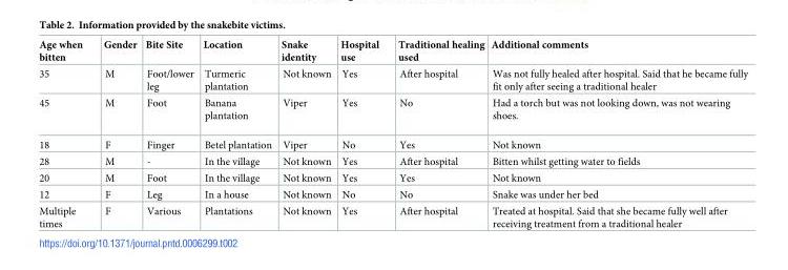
<table><thead><tr><td>Age when bitten</td><td>Gender</td><td>Bite Site</td><td>Location</td><td>Snake identity</td><td>Hospital use</td><td>Traditional healing used</td><td>Additional comments</td></tr></thead><tbody><tr><td>35</td><td>M</td><td>Foot/lower leg</td><td>Turmeric plantation</td><td>Not known</td><td>Yes</td><td>After hospital</td><td>Was not fully healed after hospital. Said that he became fully fit only after seeing a traditional healer</td></tr><tr><td>45</td><td>M</td><td>Foot</td><td>Banana plantation</td><td>Viper</td><td>Yes</td><td>No</td><td>Had a torch but was not looking down, was not wearing shoes.</td></tr><tr><td>18</td><td>F</td><td>Finger</td><td>Betel plantation</td><td>Viper</td><td>No</td><td>Yes</td><td>Not known</td></tr><tr><td>28</td><td>M</td><td>-</td><td>In the village</td><td>Not known</td><td>Yes</td><td>After hospital</td><td>Bitten whilst getting water to fields</td></tr><tr><td>20</td><td>M</td><td>Foot</td><td>In the village</td><td>Not known</td><td>Yes</td><td>Yes</td><td>Not known</td></tr><tr><td>12</td><td>F</td><td>Leg</td><td>In a house</td><td>Not known</td><td>No</td><td>No</td><td>Snake was under her bed</td></tr><tr><td>Multiple times</td><td>F</td><td>Various</td><td>Plantations</td><td>Not known</td><td>Yes</td><td>After hospital</td><td>Treated at hospital. Said that she became fully well after receiving treatment from a traditional healer</td></tr></tbody></table>